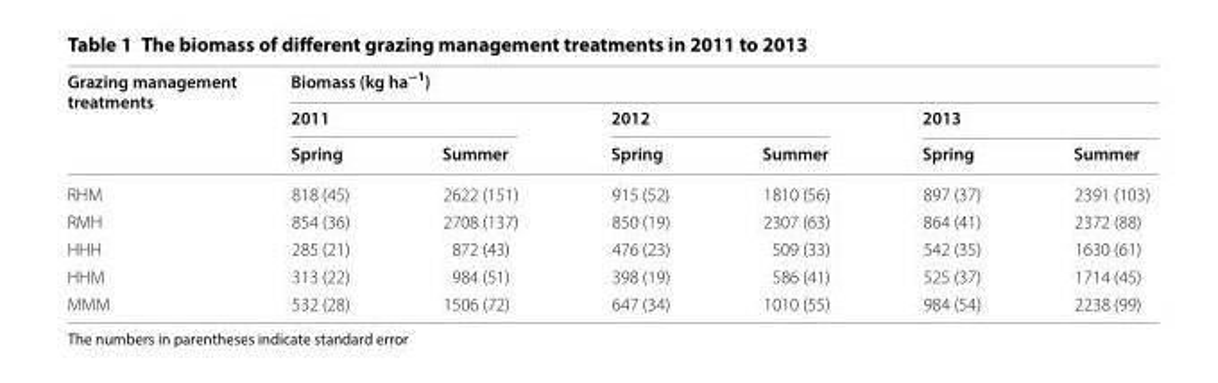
<table><thead><tr><td rowspan="3">Grazing management treatments</td><td colspan="6">Biomass (kg ha<sup>−1</sup>)</td></tr><tr><td colspan="2">2011</td><td colspan="2">2012</td><td colspan="2">2013</td></tr><tr><td>Spring</td><td>Summer</td><td>Spring</td><td>Summer</td><td>Spring</td><td>Summer</td></tr></thead><tbody><tr><td>RHM</td><td>818 (45)</td><td>2622 (151)</td><td>915 (52)</td><td>1810 (56)</td><td>897 (37)</td><td>2391 (103)</td></tr><tr><td>RMH</td><td>854 (36)</td><td>2708 (137)</td><td>850 (19)</td><td>2307 (63)</td><td>864 (41)</td><td>2372 (88)</td></tr><tr><td>HHH</td><td>285 (21)</td><td>872 (43)</td><td>476 (23)</td><td>509 (33)</td><td>542 (35)</td><td>1630 (61)</td></tr><tr><td>HHM</td><td>313 (22)</td><td>984 (51)</td><td>398 (19)</td><td>586 (41)</td><td>525 (37)</td><td>1714 (45)</td></tr><tr><td>MMM</td><td>532 (28)</td><td>1506 (72)</td><td>647 (34)</td><td>1010 (55)</td><td>984 (54)</td><td>2238 (99)</td></tr></tbody></table>